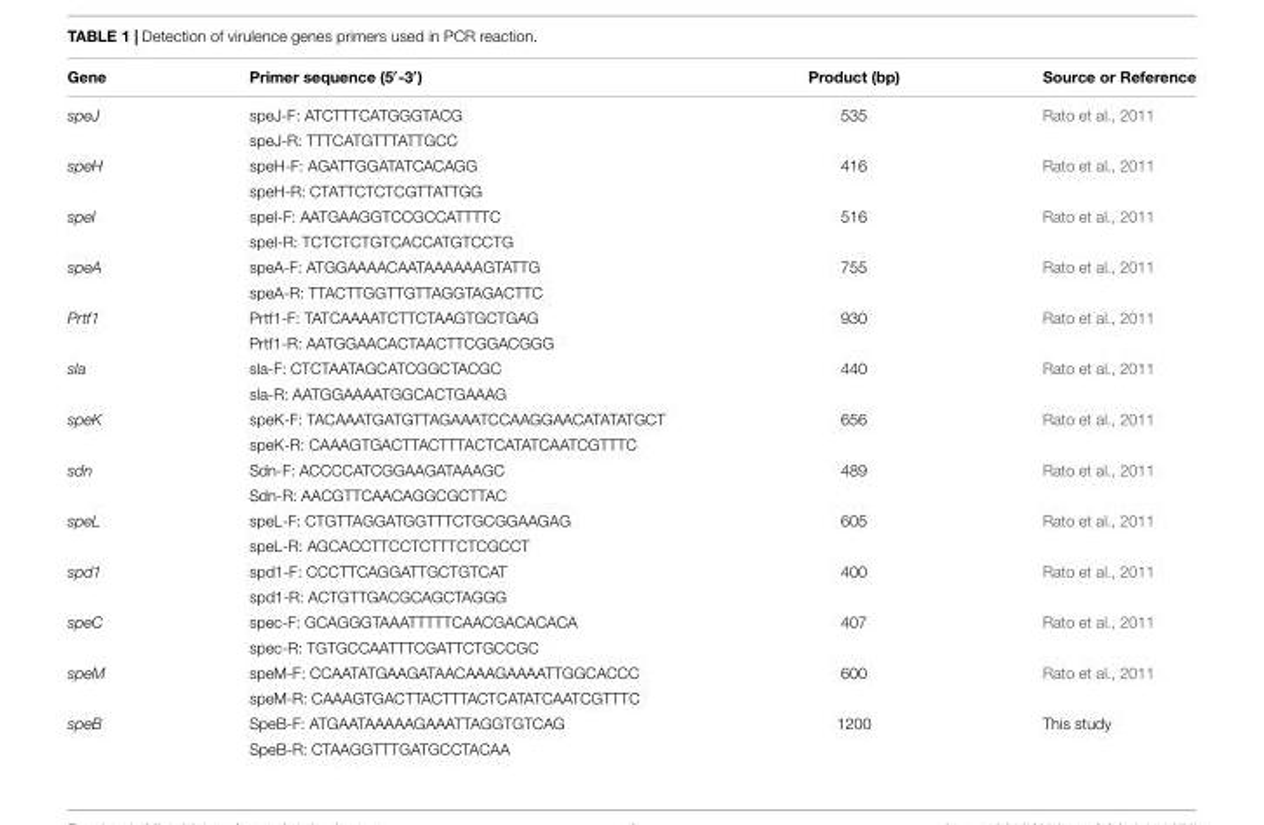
<table><thead><tr><td>Gene</td><td>Primer sequence (5′-3′)</td><td>Product (bp)</td><td>Source or Reference</td></tr></thead><tbody><tr><td rowspan="2">speJ</td><td>speJ-F: ATCTTTCATGGGTACG</td><td>535</td><td>Rato et al., 2011</td></tr><tr><td>speJ-R: TTTCATGTTTATTGCC</td><td></td><td></td></tr><tr><td rowspan="2">speH</td><td>speH-F: AGATTGGATATCACAGG</td><td>416</td><td>Rato et al., 2011</td></tr><tr><td>speH-R: CTATTCTCTCGTTATTGG</td><td></td><td></td></tr><tr><td rowspan="2">speI</td><td>speI-F: AATGAAGGTCCGCCATTTTC</td><td>516</td><td>Rato et al., 2011</td></tr><tr><td>speI-R: TCTCTCTGTCACCATGTCCTG</td><td></td><td></td></tr><tr><td rowspan="2">speA</td><td>speA-F: ATGGAAAACAATAAAAAAGTATTG</td><td>755</td><td>Rato et al., 2011</td></tr><tr><td>speA-R: TTACTTGGTTGTTAGGTAGACTTC</td><td></td><td></td></tr><tr><td rowspan="2">Prtf1</td><td>Prtf1-F: TATCAAAATCTTCTAAGTGCTGAG</td><td>930</td><td>Rato et al., 2011</td></tr><tr><td>Prtf1-R: AATGGAACACTAACTTCGGACGGG</td><td></td><td></td></tr><tr><td rowspan="2">sla</td><td>sla-F: CTCTAATAGCATCGGCTACGC</td><td>440</td><td>Rato et al., 2011</td></tr><tr><td>sla-R: AATGGAAAATGGCACTGAAAG</td><td></td><td></td></tr><tr><td rowspan="2">speK</td><td>speK-F: TACAAATGATGTTAGAAATCCAAGGAACATATATGCT</td><td>656</td><td>Rato et al., 2011</td></tr><tr><td>speK-R: CAAAGTGACTTACTTTACTCATATCAATCGTTTC</td><td></td><td></td></tr><tr><td rowspan="2">sdn</td><td>Sdn-F: ACCCCATCGGAAGATAAAGC</td><td>489</td><td>Rato et al., 2011</td></tr><tr><td>Sdn-R: AACGTTCAACAGGCGCTTAC</td><td></td><td></td></tr><tr><td rowspan="2">speL</td><td>speL-F: CTGTTAGGATGGTTTCTGCGGAAGAG</td><td>605</td><td>Rato et al., 2011</td></tr><tr><td>speL-R: AGCACCTTCCTCTTTCTCGCCT</td><td></td><td></td></tr><tr><td rowspan="2">spd1</td><td>spd1-F: CCCTTCAGGATTGCTGTCAT</td><td>400</td><td>Rato et al., 2011</td></tr><tr><td>spd1-R: ACTGTTGACGCAGCTAGGG</td><td></td><td></td></tr><tr><td rowspan="2">speC</td><td>spec-F: GCAGGGTAAATTTTTCAACGACACACA</td><td>407</td><td>Rato et al., 2011</td></tr><tr><td>spec-R: TGTGCCAATTTCGATTCTGCCGC</td><td></td><td></td></tr><tr><td rowspan="2">speM</td><td>speM-F: CCAATATGAAGATAACAAAGAAAATTGGCACCC</td><td>600</td><td>Rato et al., 2011</td></tr><tr><td>speM-R: CAAAGTGACTTACTTTACTCATATCAATCGTTTC</td><td></td><td></td></tr><tr><td rowspan="2">speB</td><td>SpeB-F: ATGAATAAAAAGAAATTAGGTGTCAG</td><td>1200</td><td>This study</td></tr><tr><td>SpeB-R: CTAAGGTTTGATGCCTACAA</td><td></td><td></td></tr></tbody></table>